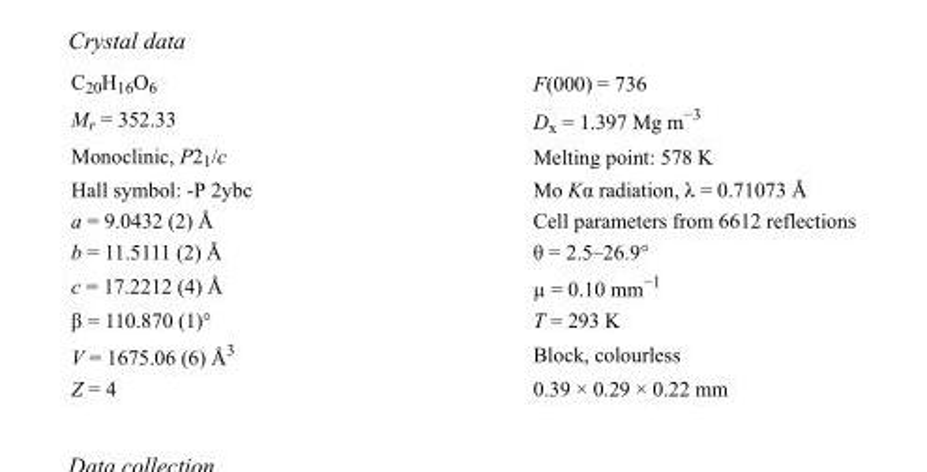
<table><tbody><tr><td>C<sub>20</sub>H<sub>16</sub>O<sub>6</sub></td><td>F(000) = 736</td></tr><tr><td>M<sub>r</sub> = 352.33</td><td>D<sub>x</sub> = 1.397 Mg m<sup>−3</sup></td></tr><tr><td>Monoclinic, P2<sub>1</sub>/c</td><td>Melting point: 578 K</td></tr><tr><td>Hall symbol: -P 2ybc</td><td>Mo Kα radiation, λ = 0.71073 Å</td></tr><tr><td>a = 9.0432 (2) Å</td><td>Cell parameters from 6612 reflections</td></tr><tr><td>b = 11.5111 (2) Å</td><td>θ = 2.5–26.9°</td></tr><tr><td>c = 17.2212 (4) Å</td><td>µ = 0.10 mm<sup>−1</sup></td></tr><tr><td>β = 110.870 (1)°</td><td>T = 293 K</td></tr><tr><td>V = 1675.06 (6) Å<sup>3</sup></td><td>Block, colourless</td></tr><tr><td>Z = 4</td><td>0.39 × 0.29 × 0.22 mm</td></tr></tbody></table>